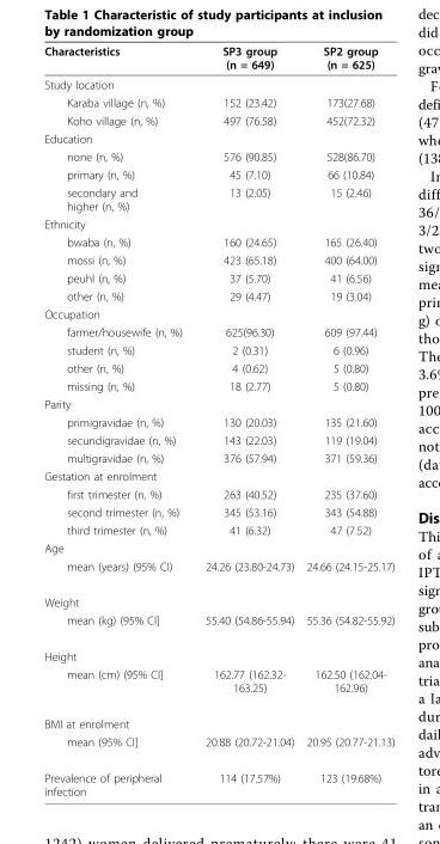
<table><thead><tr><td>Characteristics</td><td>SP3 group (n = 649)</td><td>SP2 group (n = 625)</td></tr></thead><tbody><tr><td colspan="3">Study location</td></tr><tr><td>Karaba village (n, %)</td><td>152 (23.42)</td><td>173(27.68)</td></tr><tr><td>Koho village (n, %)</td><td>497 (76.58)</td><td>452(72.32)</td></tr><tr><td colspan="3">Education</td></tr><tr><td>none (n, %)</td><td>576 (90.85)</td><td>528(86.70)</td></tr><tr><td>primary (n, %)</td><td>45 (7.10)</td><td>66 (10.84)</td></tr><tr><td>secondary and higher (n, %)</td><td>13 (2.05)</td><td>15 (2.46)</td></tr><tr><td colspan="3">Ethnicity</td></tr><tr><td>bwaba (n, %)</td><td>160 (24.65)</td><td>165 (26.40)</td></tr><tr><td>mossi (n, %)</td><td>423 (65.18)</td><td>400 (64.00)</td></tr><tr><td>peuhl (n, %)</td><td>37 (5.70)</td><td>41 (6.56)</td></tr><tr><td>other (n, %)</td><td>29 (4.47)</td><td>19 (3.04)</td></tr><tr><td colspan="3">Occupation</td></tr><tr><td>farmer/housewife (n, %)</td><td>625(96.30)</td><td>609 (97.44)</td></tr><tr><td>student (n, %)</td><td>2 (0.31)</td><td>6 (0.96)</td></tr><tr><td>other (n, %)</td><td>4 (0.62)</td><td>5 (0.80)</td></tr><tr><td>missing (n, %)</td><td>18 (2.77)</td><td>5 (0.80)</td></tr><tr><td colspan="3">Parity</td></tr><tr><td>primigravidae (n, %)</td><td>130 (20.03)</td><td>135 (21.60)</td></tr><tr><td>secundigravidae (n, %)</td><td>143 (22.03)</td><td>119 (19.04)</td></tr><tr><td>multigravidae (n, %)</td><td>376 (57.94)</td><td>371 (59.36)</td></tr><tr><td colspan="3">Gestation at enrolment</td></tr><tr><td>first trimester (n, %)</td><td>263 (40.52)</td><td>235 (37.60)</td></tr><tr><td>second trimester (n, %)</td><td>345 (53.16)</td><td>343 (54.88)</td></tr><tr><td>third trimester (n, %)</td><td>41 (6.32)</td><td>47 (7.52)</td></tr><tr><td colspan="3">Age</td></tr><tr><td>mean (years) (95% CI)</td><td>24.26 (23.80-24.73)</td><td>24.66 (24.15-25.17)</td></tr><tr><td colspan="3">Weight</td></tr><tr><td>mean (kg) (95% CI]</td><td>55.40 (54.86-55.94)</td><td>55.36 (54.82-55.92)</td></tr><tr><td colspan="3">Height</td></tr><tr><td>mean (cm) (95% CI]</td><td>162.77 (162.32- 163.25)</td><td>162.50 (162.04- 162.96)</td></tr><tr><td colspan="3">BMI at enrolment</td></tr><tr><td>mean (95% CI]</td><td>20.88 (20.72-21.04)</td><td>20.95 (20.77-21.13)</td></tr><tr><td>Prevalence of peripheral infection</td><td>114 (17.57%)</td><td>123 (19.68%)</td></tr></tbody></table>